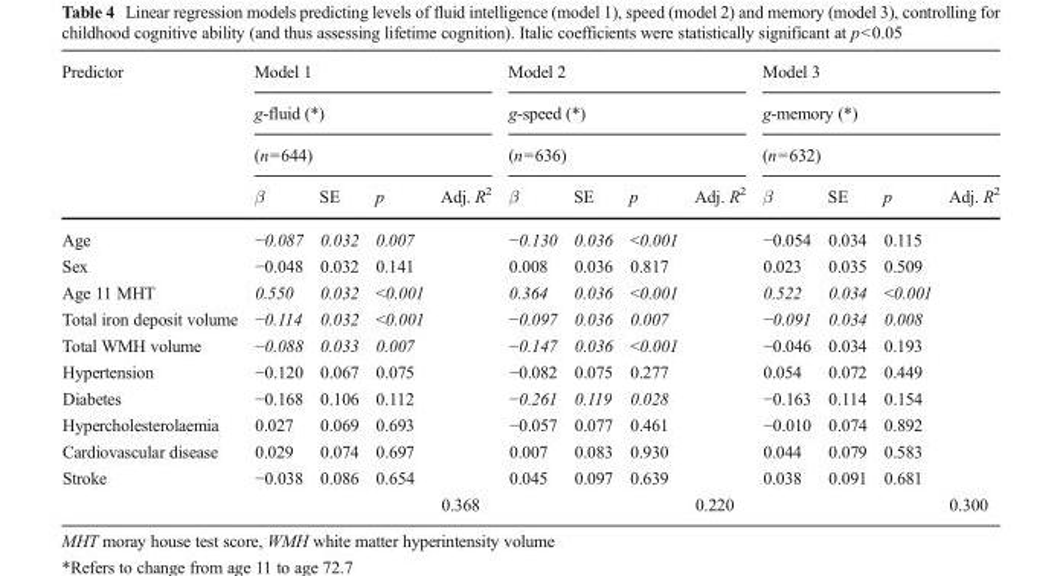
<table><thead><tr><td rowspan="4">Predictor</td><td rowspan="3" colspan="4">Model 1 g-fluid (*) (n=644)</td><td rowspan="3" colspan="4">Model 2 g-speed (*) (n=636)</td><td rowspan="3" colspan="4">Model 3 g-memory (*) (n=632)</td></tr><tr></tr><tr></tr><tr><td>β</td><td>SE</td><td>p</td><td>Adj. R<sup>2</sup></td><td>β</td><td>SE</td><td>p</td><td>Adj. R<sup>2</sup></td><td>β</td><td>SE</td><td>p</td><td>Adj. R<sup>2</sup></td></tr></thead><tbody><tr><td>Age</td><td>−0.087</td><td>0.032</td><td>0.007</td><td></td><td>−0.130</td><td>0.036</td><td>&lt;0.001</td><td></td><td>−0.054</td><td>0.034</td><td>0.115</td><td></td></tr><tr><td>Sex</td><td>−0.048</td><td>0.032</td><td>0.141</td><td></td><td>0.008</td><td>0.036</td><td>0.817</td><td></td><td>0.023</td><td>0.035</td><td>0.509</td><td></td></tr><tr><td>Age 11 MHT</td><td>0.550</td><td>0.032</td><td>&lt;0.001</td><td></td><td>0.364</td><td>0.036</td><td>&lt;0.001</td><td></td><td>0.522</td><td>0.034</td><td>&lt;0.001</td><td></td></tr><tr><td>Total iron deposit volume</td><td>−0.114</td><td>0.032</td><td>&lt;0.001</td><td></td><td>−0.097</td><td>0.036</td><td>0.007</td><td></td><td>−0.091</td><td>0.034</td><td>0.008</td><td></td></tr><tr><td>Total WMH volume</td><td>−0.088</td><td>0.033</td><td>0.007</td><td></td><td>−0.147</td><td>0.036</td><td>&lt;0.001</td><td></td><td>−0.046</td><td>0.034</td><td>0.193</td><td></td></tr><tr><td>Hypertension</td><td>−0.120</td><td>0.067</td><td>0.075</td><td></td><td>−0.082</td><td>0.075</td><td>0.277</td><td></td><td>0.054</td><td>0.072</td><td>0.449</td><td></td></tr><tr><td>Diabetes</td><td>−0.168</td><td>0.106</td><td>0.112</td><td></td><td>−0.261</td><td>0.119</td><td>0.028</td><td></td><td>−0.163</td><td>0.114</td><td>0.154</td><td></td></tr><tr><td>Hypercholesterolaemia</td><td>0.027</td><td>0.069</td><td>0.693</td><td></td><td>−0.057</td><td>0.077</td><td>0.461</td><td></td><td>−0.010</td><td>0.074</td><td>0.892</td><td></td></tr><tr><td>Cardiovascular disease</td><td>0.029</td><td>0.074</td><td>0.697</td><td></td><td>0.007</td><td>0.083</td><td>0.930</td><td></td><td>0.044</td><td>0.079</td><td>0.583</td><td></td></tr><tr><td rowspan="2">Stroke</td><td>−0.038</td><td>0.086</td><td>0.654</td><td></td><td>0.045</td><td>0.097</td><td>0.639</td><td></td><td>0.038</td><td>0.091</td><td>0.681</td><td></td></tr><tr><td></td><td></td><td></td><td>0.368</td><td></td><td></td><td></td><td>0.220</td><td></td><td></td><td></td><td>0.300</td></tr></tbody></table>